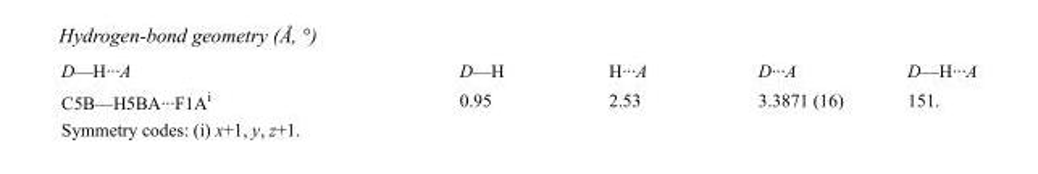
<table><tbody><tr><td>D—H···A</td><td>D—H</td><td>H···A</td><td>D···A</td><td>D—H···A</td></tr><tr><td>C5B—H5BA···F1A<sup>i</sup></td><td>0.95</td><td>2.53</td><td>3.3871 (16)</td><td>151.</td></tr></tbody></table>